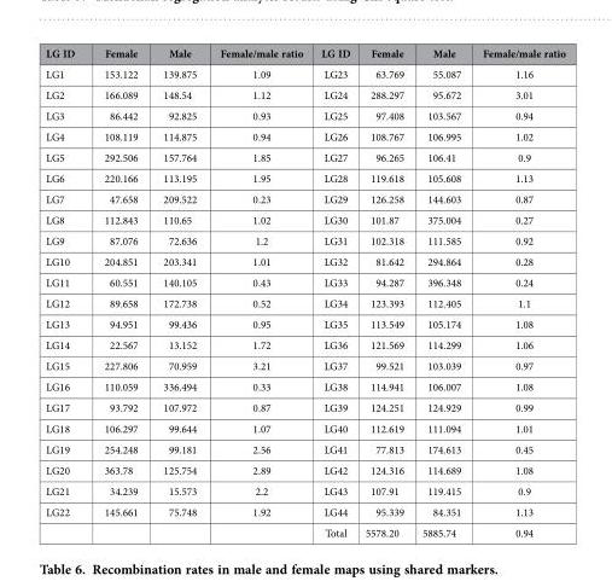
<table><thead><tr><td>LG ID</td><td>Female</td><td>Male</td><td>Female/male ratio</td><td>LG ID</td><td>Female</td><td>Male</td><td>Female/male ratio</td></tr></thead><tbody><tr><td>LG1</td><td>153.122</td><td>139.875</td><td>1.09</td><td>LG23</td><td>63.769</td><td>55.087</td><td>1.16</td></tr><tr><td>LG2</td><td>166.089</td><td>148.54</td><td>1.12</td><td>LG24</td><td>288.297</td><td>95.672</td><td>3.01</td></tr><tr><td>LG3</td><td>86.442</td><td>92.825</td><td>0.93</td><td>LG25</td><td>97.408</td><td>103.567</td><td>0.94</td></tr><tr><td>LG4</td><td>108.119</td><td>114.875</td><td>0.94</td><td>LG26</td><td>108.767</td><td>106.995</td><td>1.02</td></tr><tr><td>LG5</td><td>292.506</td><td>157.764</td><td>1.85</td><td>LG27</td><td>96.265</td><td>106.41</td><td>0.9</td></tr><tr><td>LG6</td><td>220.166</td><td>113.195</td><td>1.95</td><td>LG28</td><td>119.618</td><td>105.608</td><td>1.13</td></tr><tr><td>LG7</td><td>47.658</td><td>209.522</td><td>0.23</td><td>LG29</td><td>126.258</td><td>144.603</td><td>0.87</td></tr><tr><td>LG8</td><td>112.843</td><td>110.65</td><td>1.02</td><td>LG30</td><td>101.87</td><td>375.004</td><td>0.27</td></tr><tr><td>LG9</td><td>87.076</td><td>72.636</td><td>1.2</td><td>LG31</td><td>102.318</td><td>111.585</td><td>0.92</td></tr><tr><td>LG10</td><td>204.851</td><td>203.341</td><td>1.01</td><td>LG32</td><td>81.642</td><td>294.864</td><td>0.28</td></tr><tr><td>LG11</td><td>60.551</td><td>140.105</td><td>0.43</td><td>LG33</td><td>94.287</td><td>396.348</td><td>0.24</td></tr><tr><td>LG12</td><td>89.658</td><td>172.738</td><td>0.52</td><td>LG34</td><td>123.393</td><td>112.405</td><td>1.1</td></tr><tr><td>LG13</td><td>94.951</td><td>99.436</td><td>0.95</td><td>LG35</td><td>113.549</td><td>105.174</td><td>1.08</td></tr><tr><td>LG14</td><td>22.567</td><td>13.152</td><td>1.72</td><td>LG36</td><td>121.569</td><td>114.299</td><td>1.06</td></tr><tr><td>LG15</td><td>227.806</td><td>70.959</td><td>3.21</td><td>LG37</td><td>99.521</td><td>103.039</td><td>0.97</td></tr><tr><td>LG16</td><td>110.059</td><td>336.494</td><td>0.33</td><td>LG38</td><td>114.941</td><td>106.007</td><td>1.08</td></tr><tr><td>LG17</td><td>93.792</td><td>107.972</td><td>0.87</td><td>LG39</td><td>124.251</td><td>124.929</td><td>0.99</td></tr><tr><td>LG18</td><td>106.297</td><td>99.644</td><td>1.07</td><td>LG40</td><td>112.619</td><td>111.094</td><td>1.01</td></tr><tr><td>LG19</td><td>254.248</td><td>99.181</td><td>2.56</td><td>LG41</td><td>77.813</td><td>174.613</td><td>0.45</td></tr><tr><td>LG20</td><td>363.78</td><td>125.754</td><td>2.89</td><td>LG42</td><td>124.316</td><td>114.689</td><td>1.08</td></tr><tr><td>LG21</td><td>34.239</td><td>15.573</td><td>2.2</td><td>LG43</td><td>107.91</td><td>119.415</td><td>0.9</td></tr><tr><td rowspan="2">LG22</td><td>145.661</td><td>75.748</td><td>1.92</td><td>LG44</td><td>95.339</td><td>84.351</td><td>1.13</td></tr><tr><td></td><td></td><td></td><td>Total</td><td>5578.20</td><td>5885.74</td><td>0.94</td></tr></tbody></table>